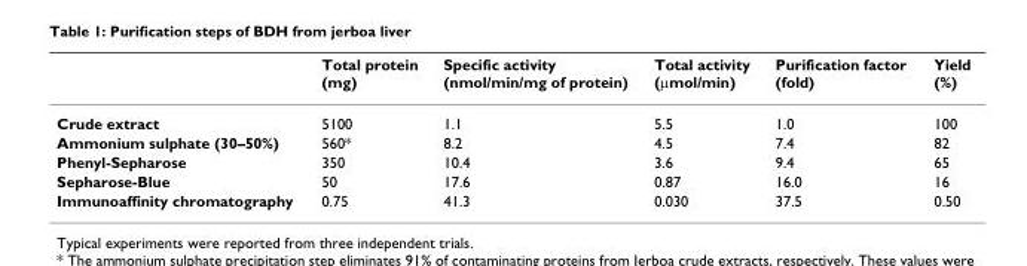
<table><thead><tr><td></td><td>Total protein (mg)</td><td>Specific activity (nmol/min/mg of protein)</td><td>Total activity (μmol/min)</td><td>Purification factor (fold)</td><td>Yield (%)</td></tr></thead><tbody><tr><td>Crude extract</td><td>5100</td><td>1.1</td><td>5.5</td><td>1.0</td><td>100</td></tr><tr><td>Ammonium sulphate (30–50%)</td><td>560*</td><td>8.2</td><td>4.5</td><td>7.4</td><td>82</td></tr><tr><td>Phenyl-Sepharose</td><td>350</td><td>10.4</td><td>3.6</td><td>9.4</td><td>65</td></tr><tr><td>Sepharose-Blue</td><td>50</td><td>17.6</td><td>0.87</td><td>16.0</td><td>16</td></tr><tr><td>Immunoaffinity chromatography</td><td>0.75</td><td>41.3</td><td>0.030</td><td>37.5</td><td>0.50</td></tr></tbody></table>